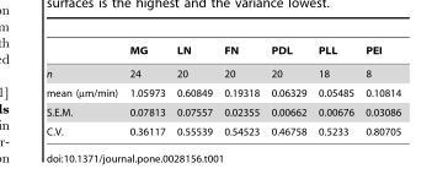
<table><thead><tr><td></td><td>MG</td><td>LN</td><td>FN</td><td>PDL</td><td>PLL</td><td>PEI</td></tr></thead><tbody><tr><td>n</td><td>24</td><td>20</td><td>20</td><td>20</td><td>18</td><td>8</td></tr><tr><td>mean (µm/min)</td><td>1.05973</td><td>0.60849</td><td>0.19318</td><td>0.06329</td><td>0.05485</td><td>0.10814</td></tr><tr><td>S.E.M.</td><td>0.07813</td><td>0.07557</td><td>0.02355</td><td>0.00662</td><td>0.00676</td><td>0.03086</td></tr><tr><td>C.V.</td><td>0.36117</td><td>0.55539</td><td>0.54523</td><td>0.46758</td><td>0.5233</td><td>0.80705</td></tr></tbody></table>